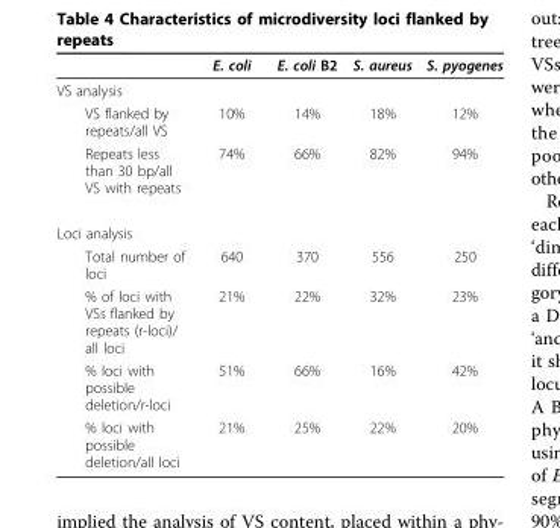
<table><thead><tr><td></td><td>E. coli</td><td>E. coli B2</td><td>S. aureus</td><td>S. pyogenes</td></tr></thead><tbody><tr><td colspan="5">VS analysis</td></tr><tr><td>VS flanked by repeats/all VS</td><td>10%</td><td>14%</td><td>18%</td><td>12%</td></tr><tr><td>Repeats less than 30 bp/all VS with repeats</td><td>74%</td><td>66%</td><td>82%</td><td>94%</td></tr><tr><td colspan="5">Loci analysis</td></tr><tr><td>Total number of loci</td><td>640</td><td>370</td><td>556</td><td>250</td></tr><tr><td>% of loci with VSs flanked by repeats (r-loci)/ all loci</td><td>21%</td><td>22%</td><td>32%</td><td>23%</td></tr><tr><td>% loci with possible deletion/r-loci</td><td>51%</td><td>66%</td><td>16%</td><td>42%</td></tr><tr><td>% loci with possible deletion/all loci</td><td>21%</td><td>25%</td><td>22%</td><td>20%</td></tr></tbody></table>